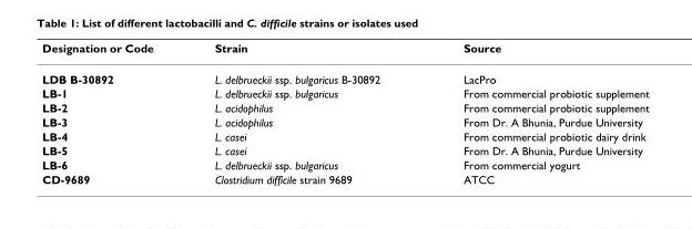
<table><thead><tr><td>Designation or Code</td><td>Strain</td><td>Source</td></tr></thead><tbody><tr><td>LDB B-30892</td><td>L. delbrueckii ssp. bulgaricus B-30892</td><td>LacPro</td></tr><tr><td>LB-1</td><td>L. delbrueckii ssp. bulgaricus</td><td>From commercial probiotic supplement</td></tr><tr><td>LB-2</td><td>L. acidophilus</td><td>From commercial probiotic supplement</td></tr><tr><td>LB-3</td><td>L. acidophilus</td><td>From Dr. A Bhunia, Purdue University</td></tr><tr><td>LB-4</td><td>L. casei</td><td>From commercial probiotic dairy drink</td></tr><tr><td>LB-5</td><td>L. casei</td><td>From Dr. A Bhunia, Purdue University</td></tr><tr><td>LB-6</td><td>L. delbrueckii ssp. bulgaricus</td><td>From commercial yogurt</td></tr><tr><td>CD-9689</td><td>Clostridium difficile strain 9689</td><td>ATCC</td></tr></tbody></table>